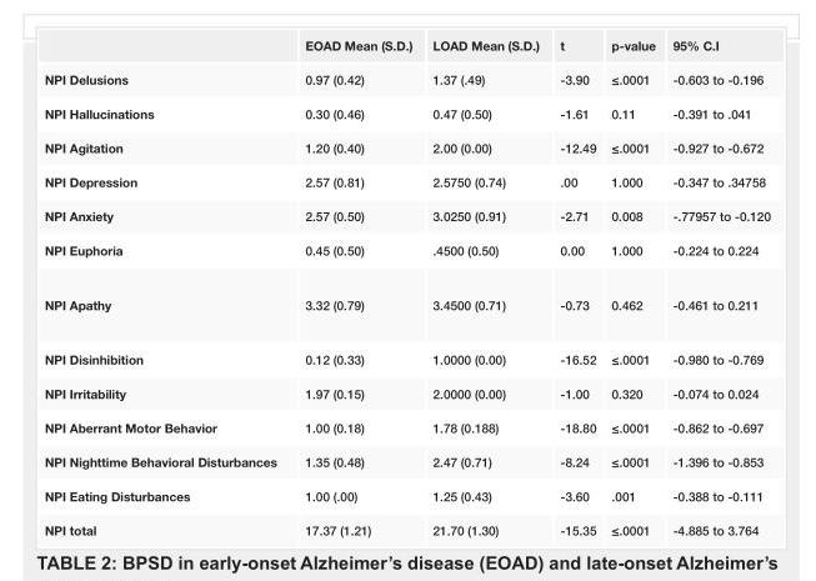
<table><thead><tr><td></td><td>EOAD Mean (S.D.)</td><td>LOAD Mean (S.D.)</td><td>t</td><td>p-value</td><td>95% C.I</td></tr></thead><tbody><tr><td>NPI Delusions</td><td>0.97 (0.42)</td><td>1.37 (.49)</td><td>-3.90</td><td>≤.0001</td><td>-0.603 to -0.196</td></tr><tr><td>NPI Hallucinations</td><td>0.30 (0.46)</td><td>0.47 (0.50)</td><td>-1.61</td><td>0.11</td><td>-0.391 to .041</td></tr><tr><td>NPI Agitation</td><td>1.20 (0.40)</td><td>2.00 (0.00)</td><td>-12.49</td><td>≤.0001</td><td>-0.927 to -0.672</td></tr><tr><td>NPI Depression</td><td>2.57 (0.81)</td><td>2.5750 (0.74)</td><td>.00</td><td>1.000</td><td>-0.347 to .34758</td></tr><tr><td>NPI Anxiety</td><td>2.57 (0.50)</td><td>3.0250 (0.91)</td><td>-2.71</td><td>0.008</td><td>-.77957 to -0.120</td></tr><tr><td>NPI Euphoria</td><td>0.45 (0.50)</td><td>.4500 (0.50)</td><td>0.00</td><td>1.000</td><td>-0.224 to 0.224</td></tr><tr><td>NPI Apathy</td><td>3.32 (0.79)</td><td>3.4500 (0.71)</td><td>-0.73</td><td>0.462</td><td>-0.461 to 0.211</td></tr><tr><td>NPI Disinhibition</td><td>0.12 (0.33)</td><td>1.0000 (0.00)</td><td>-16.52</td><td>≤.0001</td><td>-0.980 to -0.769</td></tr><tr><td>NPI Irritability</td><td>1.97 (0.15)</td><td>2.0000 (0.00)</td><td>-1.00</td><td>0.320</td><td>-0.074 to 0.024</td></tr><tr><td>NPI Aberrant Motor Behavior</td><td>1.00 (0.18)</td><td>1.78 (0.188)</td><td>-18.80</td><td>≤.0001</td><td>-0.862 to -0.697</td></tr><tr><td>NPI Nighttime Behavioral Disturbances</td><td>1.35 (0.48)</td><td>2.47 (0.71)</td><td>-8.24</td><td>≤.0001</td><td>-1.396 to -0.853</td></tr><tr><td>NPI Eating Disturbances</td><td>1.00 (.00)</td><td>1.25 (0.43)</td><td>-3.60</td><td>.001</td><td>-0.388 to -0.111</td></tr><tr><td>NPI total</td><td>17.37 (1.21)</td><td>21.70 (1.30)</td><td>-15.35</td><td>≤.0001</td><td>-4.885 to 3.764</td></tr></tbody></table>